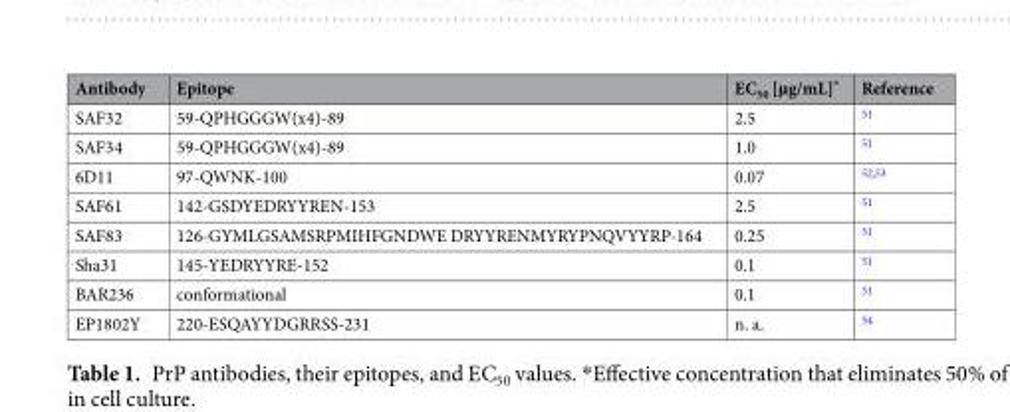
<table><thead><tr><td>Antibody</td><td>Epitope</td><td>EC<sub>50</sub> [µg/mL]*</td><td>Reference</td></tr></thead><tbody><tr><td>SAF32</td><td>59-QPHGGGW(x4)-89</td><td>2.5</td><td><sup>51</sup></td></tr><tr><td>SAF34</td><td>59-QPHGGGW(x4)-89</td><td>1.0</td><td><sup>51</sup></td></tr><tr><td>6D11</td><td>97-QWNK-100</td><td>0.07</td><td><sup>52,53</sup></td></tr><tr><td>SAF61</td><td>142-GSDYEDRYYREN-153</td><td>2.5</td><td><sup>51</sup></td></tr><tr><td>SAF83</td><td>126-GYMLGSAMSRPMIHFGNDWE DRYYRENMYRYPNQVYYRP-164</td><td>0.25</td><td><sup>51</sup></td></tr><tr><td>Sha31</td><td>145-YEDRYYRE-152</td><td>0.1</td><td><sup>51</sup></td></tr><tr><td>BAR236</td><td>conformational</td><td>0.1</td><td><sup>51</sup></td></tr><tr><td>EP1802Y</td><td>220-ESQAYYDGRRSS-231</td><td>n. a.</td><td><sup>54</sup></td></tr></tbody></table>